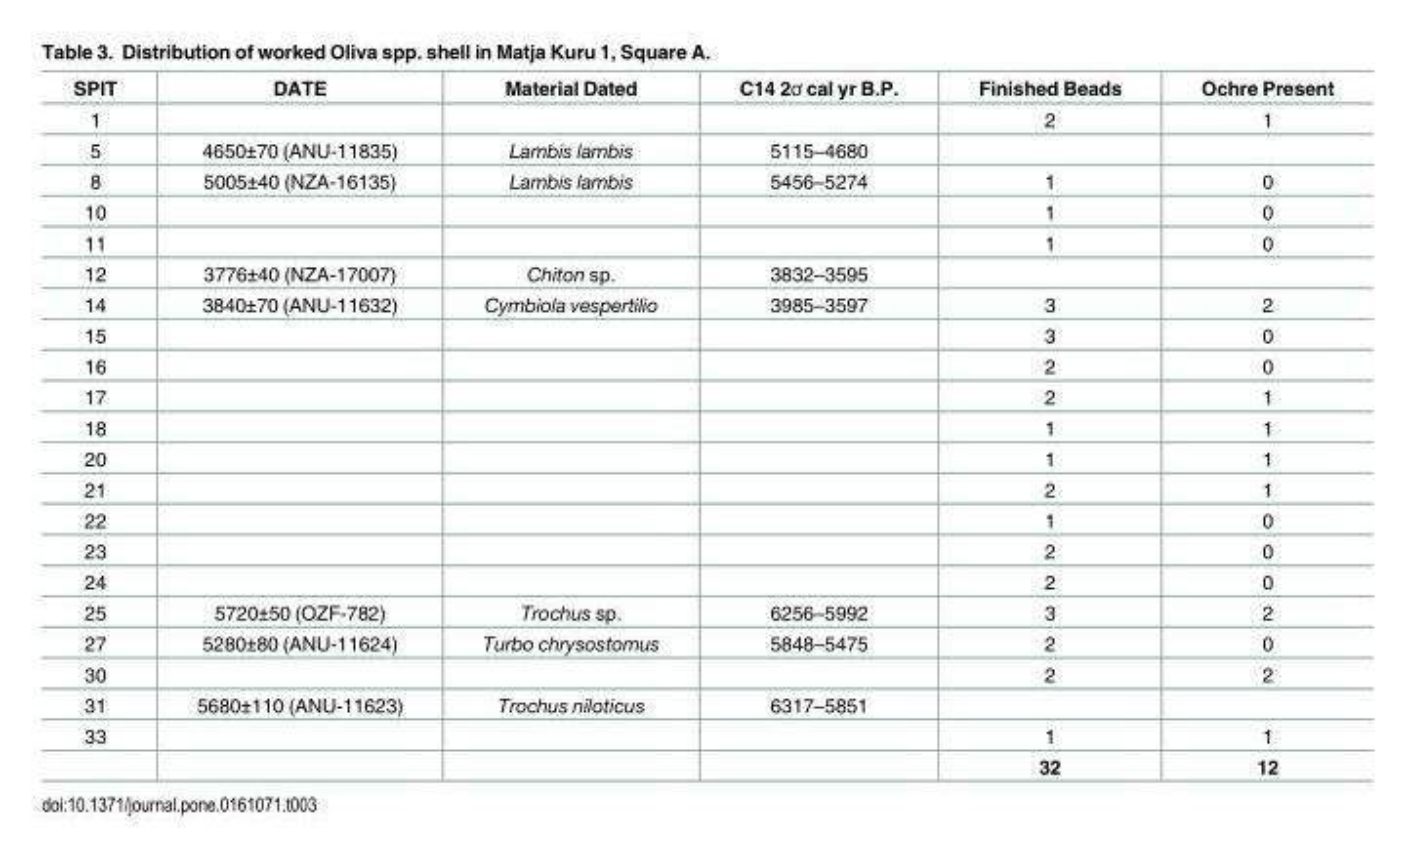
<table><thead><tr><td>SPIT</td><td>DATE</td><td>Material Dated</td><td>C14 2ơ cal yr B.P.</td><td>Finished Beads</td><td>Ochre Present</td></tr></thead><tbody><tr><td>1</td><td></td><td></td><td></td><td>2</td><td>1</td></tr><tr><td>5</td><td>4650±70 (ANU-11835)</td><td>Lambis lambis</td><td>5115–4680</td><td></td><td></td></tr><tr><td>8</td><td>5005±40 (NZA-16135)</td><td>Lambis lambis</td><td>5456–5274</td><td>1</td><td>0</td></tr><tr><td>10</td><td></td><td></td><td></td><td>1</td><td>0</td></tr><tr><td>11</td><td></td><td></td><td></td><td>1</td><td>0</td></tr><tr><td>12</td><td>3776±40 (NZA-17007)</td><td>Chiton sp.</td><td>3832–3595</td><td></td><td></td></tr><tr><td>14</td><td>3840±70 (ANU-11632)</td><td>Cymbiola vespertilio</td><td>3985–3597</td><td>3</td><td>2</td></tr><tr><td>15</td><td></td><td></td><td></td><td>3</td><td>0</td></tr><tr><td>16</td><td></td><td></td><td></td><td>2</td><td>0</td></tr><tr><td>17</td><td></td><td></td><td></td><td>2</td><td>1</td></tr><tr><td>18</td><td></td><td></td><td></td><td>1</td><td>1</td></tr><tr><td>20</td><td></td><td></td><td></td><td>1</td><td>1</td></tr><tr><td>21</td><td></td><td></td><td></td><td>2</td><td>1</td></tr><tr><td>22</td><td></td><td></td><td></td><td>1</td><td>0</td></tr><tr><td>23</td><td></td><td></td><td></td><td>2</td><td>0</td></tr><tr><td>24</td><td></td><td></td><td></td><td>2</td><td>0</td></tr><tr><td>25</td><td>5720±50 (OZF-782)</td><td>Trochus sp.</td><td>6256–5992</td><td>3</td><td>2</td></tr><tr><td>27</td><td>5280±80 (ANU-11624)</td><td>Turbo chrysostomus</td><td>5848–5475</td><td>2</td><td>0</td></tr><tr><td>30</td><td></td><td></td><td></td><td>2</td><td>2</td></tr><tr><td>31</td><td>5680±110 (ANU-11623)</td><td>Trochus niloticus</td><td>6317–5851</td><td></td><td></td></tr><tr><td rowspan="2">33</td><td></td><td></td><td></td><td>1</td><td>1</td></tr><tr><td></td><td></td><td></td><td>32</td><td>12</td></tr></tbody></table>